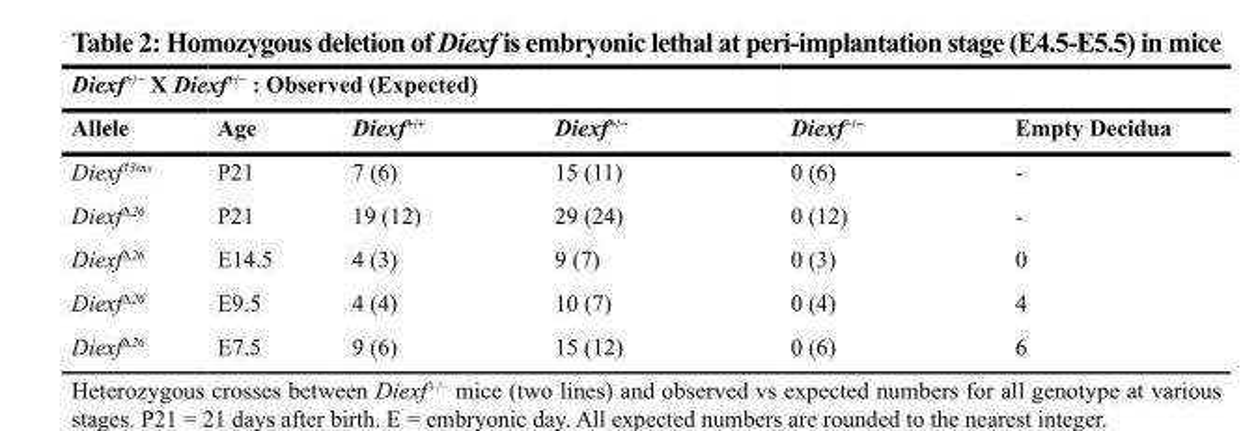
<table><thead><tr><td colspan="5">Diexf<sup>+/−</sup> X Diexf<sup>+/−</sup> : Observed (Expected)</td><td rowspan="2">Empty Decidua</td></tr><tr><td>Allele</td><td>Age</td><td>Diexf<sup>+/+</sup></td><td>Diexf<sup>+/−</sup></td><td>Diexf<sup>−/−</sup></td></tr></thead><tbody><tr><td>Diexf<sup>13ins</sup></td><td>P21</td><td>7 (6)</td><td>15 (11)</td><td>0 (6)</td><td>-</td></tr><tr><td>Diexf<sup>∆26</sup></td><td>P21</td><td>19 (12)</td><td>29 (24)</td><td>0 (12)</td><td>-</td></tr><tr><td>Diexf<sup>∆26</sup></td><td>E14.5</td><td>4 (3)</td><td>9 (7)</td><td>0 (3)</td><td>0</td></tr><tr><td>Diexf<sup>∆26</sup></td><td>E9.5</td><td>4 (4)</td><td>10 (7)</td><td>0 (4)</td><td>4</td></tr><tr><td>Diexf<sup>∆26</sup></td><td>E7.5</td><td>9 (6)</td><td>15 (12)</td><td>0 (6)</td><td>6</td></tr></tbody></table>